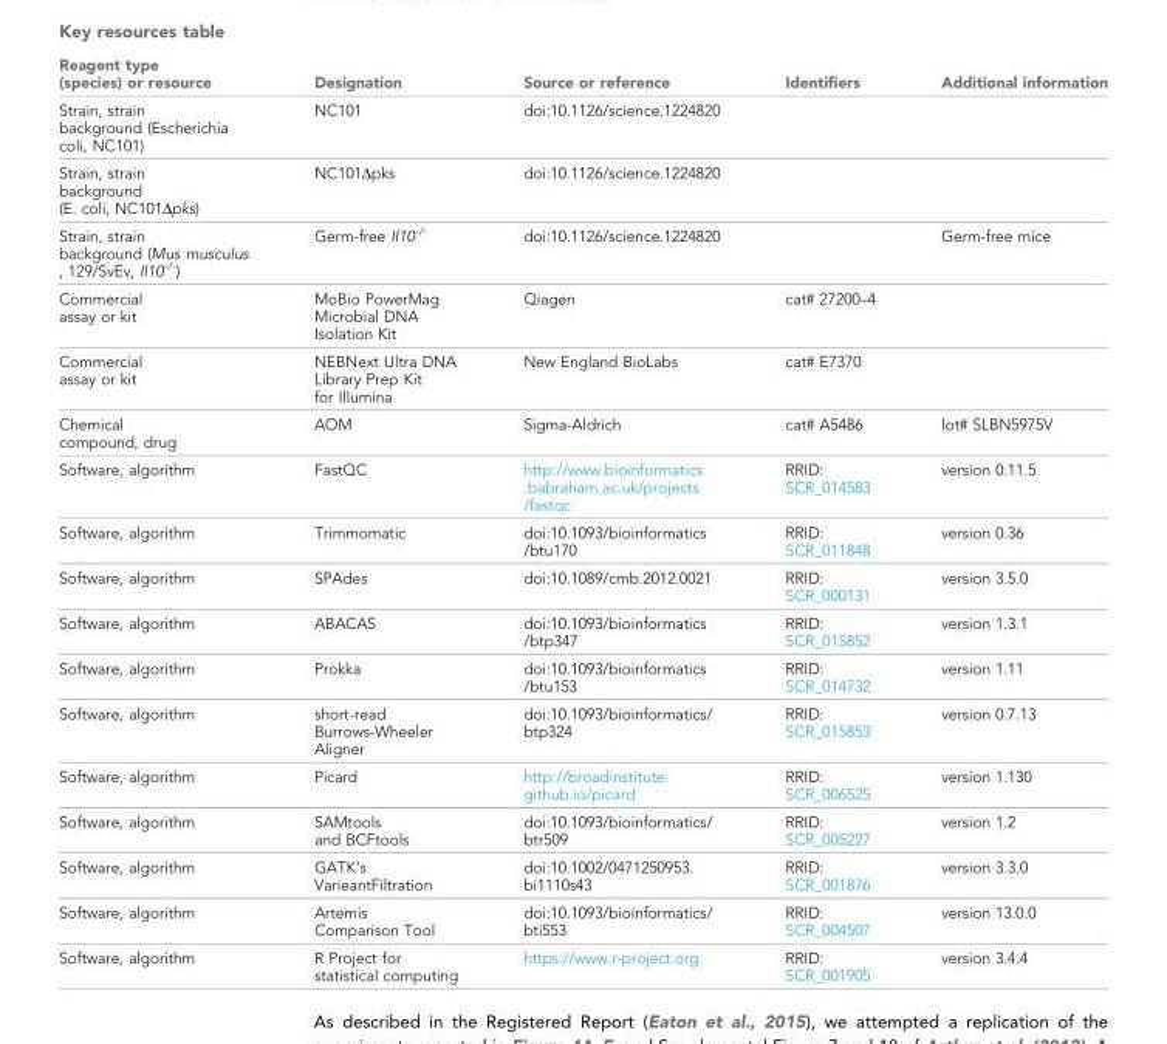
<table><thead><tr><td>Reagent type (species) or resource</td><td>Designation</td><td>Source or reference</td><td>Identifiers</td><td>Additional information</td></tr></thead><tbody><tr><td>Strain, strain background (Escherichia coli, NC101)</td><td>NC101</td><td>doi:10.1126/science.1224820</td><td></td><td></td></tr><tr><td>Strain, strain background (E. coli, NC101Δpks)</td><td>NC101Δpks</td><td>doi:10.1126/science.1224820</td><td></td><td></td></tr><tr><td>Strain, strain background (Mus musculus , 129/SvEv, Il10<sup>-/-</sup>)</td><td>Germ-free Il10<sup>-/-</sup></td><td>doi:10.1126/science.1224820</td><td></td><td>Germ-free mice</td></tr><tr><td>Commercial assay or kit</td><td>MoBio PowerMag Microbial DNA Isolation Kit</td><td>Qiagen</td><td>cat# 27200–4</td><td></td></tr><tr><td>Commercial assay or kit</td><td>NEBNext Ultra DNA Library Prep Kit for Illumina</td><td>New England BioLabs</td><td>cat# E7370</td><td></td></tr><tr><td>Chemical compound, drug</td><td>AOM</td><td>Sigma-Aldrich</td><td>cat# A5486</td><td>lot# SLBN5975V</td></tr><tr><td>Software, algorithm</td><td>FastQC</td><td>http://www.bioinformatics .babraham.ac.uk/projects /fastqc</td><td>RRID: SCR_014583</td><td>version 0.11.5</td></tr><tr><td>Software, algorithm</td><td>Trimmomatic</td><td>doi:10.1093/bioinformatics /btu170</td><td>RRID: SCR_011848</td><td>version 0.36</td></tr><tr><td>Software, algorithm</td><td>SPAdes</td><td>doi:10.1089/cmb.2012.0021</td><td>RRID: SCR_000131</td><td>version 3.5.0</td></tr><tr><td>Software, algorithm</td><td>ABACAS</td><td>doi:10.1093/bioinformatics /btp347</td><td>RRID: SCR_015852</td><td>version 1.3.1</td></tr><tr><td>Software, algorithm</td><td>Prokka</td><td>doi:10.1093/bioinformatics /btu153</td><td>RRID: SCR_014732</td><td>version 1.11</td></tr><tr><td>Software, algorithm</td><td>short-read Burrows-Wheeler Aligner</td><td>doi:10.1093/bioinformatics/ btp324</td><td>RRID: SCR_015853</td><td>version 0.7.13</td></tr><tr><td>Software, algorithm</td><td>Picard</td><td>http://broadinstitute. github.io/picard</td><td>RRID: SCR_006525</td><td>version 1.130</td></tr><tr><td>Software, algorithm</td><td>SAMtools and BCFtools</td><td>doi:10.1093/bioinformatics/ btr509</td><td>RRID: SCR_005227</td><td>version 1.2</td></tr><tr><td>Software, algorithm</td><td>GATK’s VarieantFiltration</td><td>doi:10.1002/0471250953. bi1110s43</td><td>RRID: SCR_001876</td><td>version 3.3.0</td></tr><tr><td>Software, algorithm</td><td>Artemis Comparison Tool</td><td>doi:10.1093/bioinformatics/ bti553</td><td>RRID: SCR_004507</td><td>version 13.0.0</td></tr><tr><td>Software, algorithm</td><td>R Project for statistical computing</td><td>https://www.r-project.org</td><td>RRID: SCR_001905</td><td>version 3.4.4</td></tr></tbody></table>